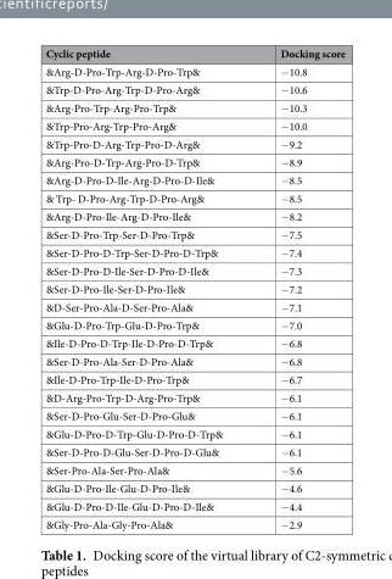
<table><thead><tr><td>Cyclic peptide</td><td>Docking score</td></tr></thead><tbody><tr><td>&amp;Arg-D-Pro-Trp-Arg-D-Pro-Trp&amp;</td><td>−10.8</td></tr><tr><td>&amp;Trp-D-Pro-Arg-Trp-D-Pro-Arg&amp;</td><td>−10.6</td></tr><tr><td>&amp;Arg-Pro-Trp-Arg-Pro-Trp&amp;</td><td>−10.3</td></tr><tr><td>&amp;Trp-Pro-Arg-Trp-Pro-Arg&amp;</td><td>−10.0</td></tr><tr><td>&amp;Trp-Pro-D-Arg-Trp-Pro-D-Arg&amp;</td><td>−9.2</td></tr><tr><td>&amp;Arg-Pro-D-Trp-Arg-Pro-D-Trp&amp;</td><td>−8.9</td></tr><tr><td>&amp;Arg-D-Pro-D-Ile-Arg-D-Pro-D-Ile&amp;</td><td>−8.5</td></tr><tr><td>&amp; Trp- D-Pro-Arg-Trp-D-Pro-Arg&amp;</td><td>−8.5</td></tr><tr><td>&amp;Arg-D-Pro-Ile-Arg-D-Pro-Ile&amp;</td><td>−8.2</td></tr><tr><td>&amp;Ser-D-Pro-Trp-Ser-D-Pro-Trp&amp;</td><td>−7.5</td></tr><tr><td>&amp;Ser-D-Pro-D-Trp-Ser-D-Pro-D-Trp&amp;</td><td>−7.4</td></tr><tr><td>&amp;Ser-D-Pro-D-Ile-Ser-D-Pro-D-Ile&amp;</td><td>−7.3</td></tr><tr><td>&amp;Ser-D-Pro-Ile-Ser-D-Pro-Ile&amp;</td><td>−7.2</td></tr><tr><td>&amp;D-Ser-Pro-Ala-D-Ser-Pro-Ala&amp;</td><td>−7.1</td></tr><tr><td>&amp;Glu-D-Pro-Trp-Glu-D-Pro-Trp&amp;</td><td>−7.0</td></tr><tr><td>&amp;Ile-D-Pro-D-Trp-Ile-D-Pro-D-Trp&amp;</td><td>−6.8</td></tr><tr><td>&amp;Ser-D-Pro-Ala-Ser-D-Pro-Ala&amp;</td><td>−6.8</td></tr><tr><td>&amp;Ile-D-Pro-Trp-Ile-D-Pro-Trp&amp;</td><td>−6.7</td></tr><tr><td>&amp;D-Arg-Pro-Trp-D-Arg-Pro-Trp&amp;</td><td>−6.1</td></tr><tr><td>&amp;Ser-D-Pro-Glu-Ser-D-Pro-Glu&amp;</td><td>−6.1</td></tr><tr><td>&amp;Glu-D-Pro-D-Trp-Glu-D-Pro-D-Trp&amp;</td><td>−6.1</td></tr><tr><td>&amp;Ser-D-Pro-D-Glu-Ser-D-Pro-D-Glu&amp;</td><td>−6.1</td></tr><tr><td>&amp;Ser-Pro-Ala-Ser-Pro-Ala&amp;</td><td>−5.6</td></tr><tr><td>&amp;Glu-D-Pro-Ile-Glu-D-Pro-Ile&amp;</td><td>−4.6</td></tr><tr><td>&amp;Glu-D-Pro-D-Ile-Glu-D-Pro-D-Ile&amp;</td><td>−4.4</td></tr><tr><td>&amp;Gly-Pro-Ala-Gly-Pro-Ala&amp;</td><td>−2.9</td></tr></tbody></table>